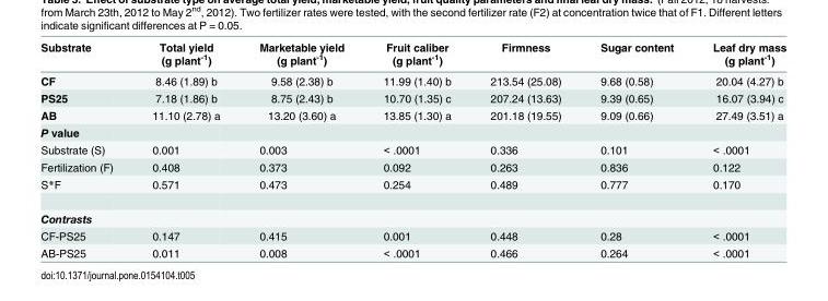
<table><thead><tr><td>Substrate</td><td>Total yield (g plant<sup>-1</sup>)</td><td>Marketable yield (g plant<sup>-1</sup>)</td><td>Fruit caliber (g plant<sup>-1</sup>)</td><td>Firmness</td><td>Sugar content</td><td>Leaf dry mass (g plant<sup>-1</sup>)</td></tr></thead><tbody><tr><td>CF</td><td>8.46 (1.89) b</td><td>9.58 (2.38) b</td><td>11.99 (1.40) b</td><td>213.54 (25.08)</td><td>9.68 (0.58)</td><td>20.04 (4.27) b</td></tr><tr><td>PS25</td><td>7.18 (1.86) b</td><td>8.75 (2.43) b</td><td>10.70 (1.35) c</td><td>207.24 (13.63)</td><td>9.39 (0.65)</td><td>16.07 (3.94) c</td></tr><tr><td>AB</td><td>11.10 (2.78) a</td><td>13.20 (3.60) a</td><td>13.85 (1.30) a</td><td>201.18 (19.55)</td><td>9.09 (0.66)</td><td>27.49 (3.51) a</td></tr><tr><td colspan="7">P value</td></tr><tr><td>Substrate (S)</td><td>0.001</td><td>0.003</td><td>&lt; .0001</td><td>0.336</td><td>0.101</td><td>&lt; .0001</td></tr><tr><td>Fertilization (F)</td><td>0.408</td><td>0.373</td><td>0.092</td><td>0.263</td><td>0.836</td><td>0.122</td></tr><tr><td>S*F</td><td>0.571</td><td>0.473</td><td>0.254</td><td>0.489</td><td>0.777</td><td>0.170</td></tr><tr><td colspan="7">Contrasts</td></tr><tr><td>CF-PS25</td><td>0.147</td><td>0.415</td><td>0.001</td><td>0.448</td><td>0.28</td><td>&lt; .0001</td></tr><tr><td>AB-PS25</td><td>0.011</td><td>0.008</td><td>&lt; .0001</td><td>0.466</td><td>0.264</td><td>&lt; .0001</td></tr></tbody></table>